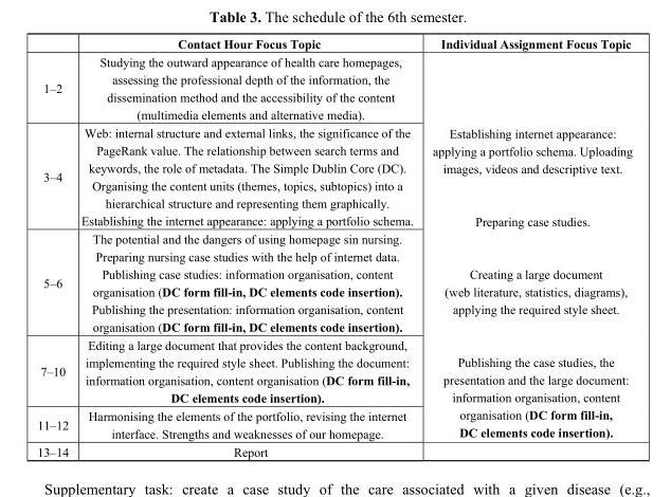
<table><thead><tr><td></td><td>Contact Hour Focus Topic</td><td>Individual Assignment Focus Topic</td></tr></thead><tbody><tr><td>1–2</td><td>Studying the outward appearance of health care homepages, assessing the professional depth of the information, the dissemination method and the accessibility of the content (multimedia elements and alternative media).</td><td rowspan="5">Establishing internet appearance: applying a portfolio schema. Uploading images, videos and descriptive text. Preparing case studies. Creating a large document (web literature, statistics, diagrams), applying the required style sheet. Publishing the case studies, the presentation and the large document: information organisation, content organisation (DC form fill-in, DC elements code insertion).</td></tr><tr><td>3–4</td><td>Web: internal structure and external links, the significance of the PageRank value. The relationship between search terms and keywords, the role of metadata. The Simple Dublin Core (DC). Organising the content units (themes, topics, subtopics) into a hierarchical structure and representing them graphically. Establishing the internet appearance: applying a portfolio schema.</td></tr><tr><td>5–6</td><td>The potential and the dangers of using homepage sin nursing. Preparing nursing case studies with the help of internet data. Publishing case studies: information organisation, content organisation (DC form fill-in, DC elements code insertion). Publishing the presentation: information organisation, content organisation (DC form fill-in, DC elements code insertion).</td></tr><tr><td>7–10</td><td>Editing a large document that provides the content background, implementing the required style sheet. Publishing the document: information organisation, content organisation (DC form fill-in, DC elements code insertion).</td></tr><tr><td>11–12</td><td>Harmonising the elements of the portfolio, revising the internet interface. Strengths and weaknesses of our homepage.</td></tr><tr><td>13–14</td><td>Report</td><td></td></tr></tbody></table>